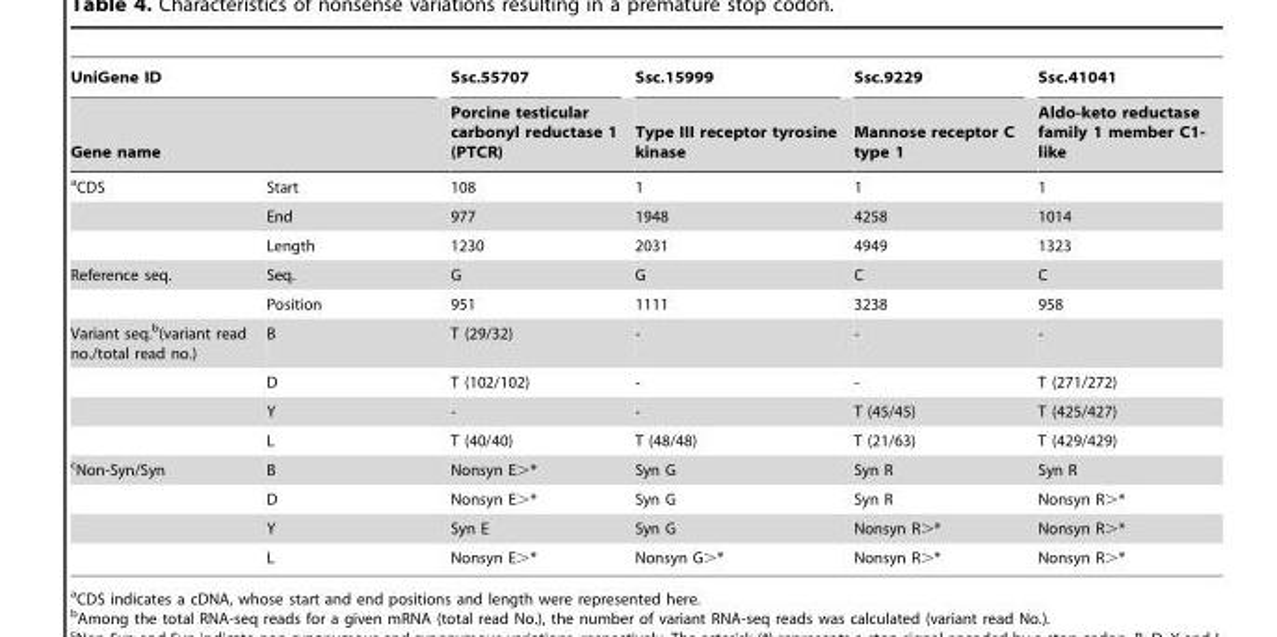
<table><thead><tr><td rowspan="2" colspan="2">UniGene ID Gene name</td><td rowspan="3">Ssc.55707 Porcine testicular carbonyl reductase 1 (PTCR) 108</td><td rowspan="3">Ssc.15999 Type III receptor tyrosine kinase 1</td><td rowspan="3">Ssc.9229 Mannose receptor C type 1 1</td><td rowspan="3">Ssc.41041 Aldo-keto reductase family 1 member C1- like 1</td></tr><tr></tr><tr><td>aCDS</td><td>Start</td></tr></thead><tbody><tr><td></td><td>End</td><td>977</td><td>1948</td><td>4258</td><td>1014</td></tr><tr><td></td><td>Length</td><td>1230</td><td>2031</td><td>4949</td><td>1323</td></tr><tr><td rowspan="2">Reference seq.</td><td>Seq.</td><td>G</td><td>G</td><td>C</td><td>C</td></tr><tr><td>Position</td><td>951</td><td>1111</td><td>3238</td><td>958</td></tr><tr><td rowspan="4">Variant seq.<sup>b</sup>(variant read no./total read no.)</td><td>B</td><td>T (29/32)</td><td>-</td><td>-</td><td>-</td></tr><tr><td>D</td><td>T (102/102)</td><td>-</td><td>-</td><td>T (271/272)</td></tr><tr><td>Y</td><td>-</td><td>-</td><td>T (45/45)</td><td>T (425/427)</td></tr><tr><td>L</td><td>T (40/40)</td><td>T (48/48)</td><td>T (21/63)</td><td>T (429/429)</td></tr><tr><td rowspan="4">cNon-Syn/Syn</td><td>B</td><td>Nonsyn E&gt;*</td><td>Syn G</td><td>Syn R</td><td>Syn R</td></tr><tr><td>D</td><td>Nonsyn E&gt;*</td><td>Syn G</td><td>Syn R</td><td>Nonsyn R&gt;*</td></tr><tr><td>Y</td><td>Syn E</td><td>Syn G</td><td>Nonsyn R&gt;*</td><td>Nonsyn R&gt;*</td></tr><tr><td>L</td><td>Nonsyn E&gt;*</td><td>Nonsyn G&gt;*</td><td>Nonsyn R&gt;*</td><td>Nonsyn R&gt;*</td></tr></tbody></table>